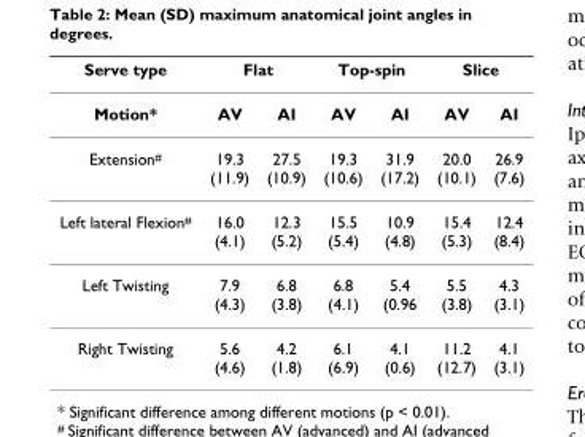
<table><thead><tr><td rowspan="2">Serve type Motion*</td><td colspan="2">Flat</td><td colspan="2">Top-spin</td><td colspan="2">Slice</td></tr><tr><td>AV</td><td>AI</td><td>AV</td><td>AI</td><td>AV</td><td>AI</td></tr></thead><tbody><tr><td>Extension<sup>#</sup></td><td>19.3 (11.9)</td><td>27.5 (10.9)</td><td>19.3 (10.6)</td><td>31.9 (17.2)</td><td>20.0 (10.1)</td><td>26.9 (7.6)</td></tr><tr><td>Left lateral Flexion<sup>#</sup></td><td>16.0 (4.1)</td><td>12.3 (5.2)</td><td>15.5 (5.4)</td><td>10.9 (4.8)</td><td>15.4 (5.3)</td><td>12.4 (8.4)</td></tr><tr><td>Left Twisting</td><td>7.9 (4.3)</td><td>6.8 (3.8)</td><td>6.8 (4.1)</td><td>5.4 (0.96</td><td>5.5 (3.8)</td><td>4.3 (3.1)</td></tr><tr><td>Right Twisting</td><td>5.6 (4.6)</td><td>4.2 (1.8)</td><td>6.1 (6.9)</td><td>4.1 (0.6)</td><td>11.2 (12.7)</td><td>4.1 (3.1)</td></tr></tbody></table>